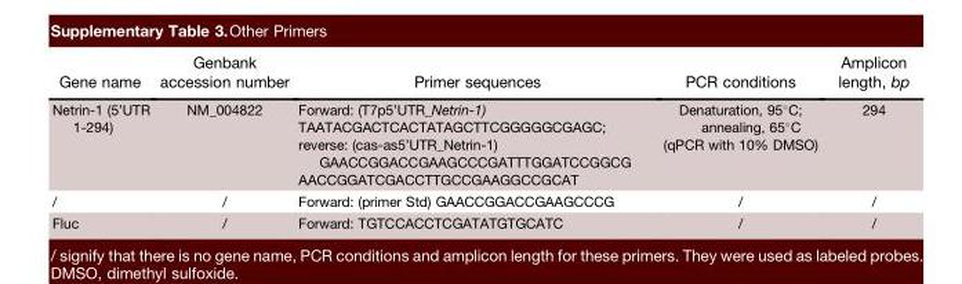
<table><thead><tr><td>Gene name</td><td>Genbank accession number</td><td>Primer sequences</td><td>PCR conditions</td><td>Amplicon length, bp</td></tr></thead><tbody><tr><td>Netrin-1 (5’UTR 1-294)</td><td>NM_004822</td><td>Forward: (T7p5’UTR_Netrin-1) TAATACGACTCACTATAGCTTCGGGGGCGAGC; reverse: (cas-as5’UTR_Netrin-1) GAACCGGACCGAAGCCCGATTTGGATCCGGCG AACCGGATCGACCTTGCCGAAGGCCGCAT</td><td>Denaturation, 95°C; annealing, 65°C (qPCR with 10% DMSO)</td><td>294</td></tr><tr><td>/</td><td>/</td><td>Forward: (primer Std) GAACCGGACCGAAGCCCG</td><td>/</td><td>/</td></tr><tr><td>Fluc</td><td>/</td><td>Forward: TGTCCACCTCGATATGTGCATC</td><td>/</td><td>/</td></tr></tbody></table>